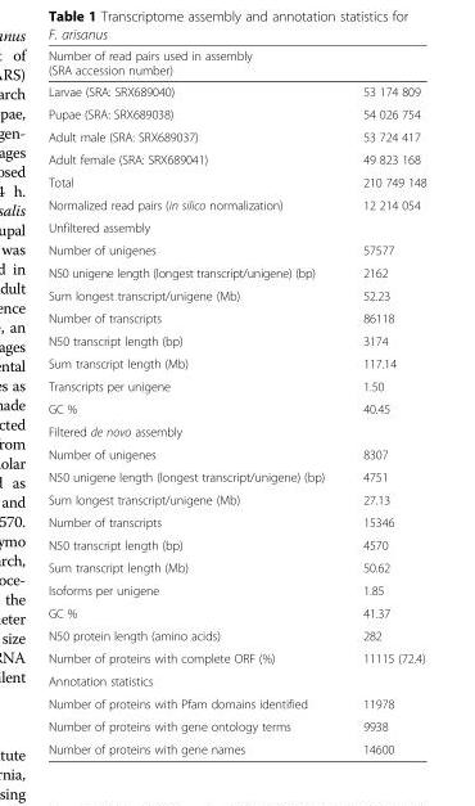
<table><thead><tr><td>Number of read pairs used in assembly (SRA accession number)</td><td></td></tr></thead><tbody><tr><td>Larvae (SRA: SRX689040)</td><td>53 174 809</td></tr><tr><td>Pupae (SRA: SRX689038)</td><td>54 026 754</td></tr><tr><td>Adult male (SRA: SRX689037)</td><td>53 724 417</td></tr><tr><td>Adult female (SRA: SRX689041)</td><td>49 823 168</td></tr><tr><td>Total</td><td>210 749 148</td></tr><tr><td>Normalized read pairs (in silico normalization)</td><td>12 214 054</td></tr><tr><td colspan="2">Unfiltered assembly</td></tr><tr><td>Number of unigenes</td><td>57577</td></tr><tr><td>N50 unigene length (longest transcript/unigene) (bp)</td><td>2162</td></tr><tr><td>Sum longest transcript/unigene (Mb)</td><td>52.23</td></tr><tr><td>Number of transcripts</td><td>86118</td></tr><tr><td>N50 transcript length (bp)</td><td>3174</td></tr><tr><td>Sum transcript length (Mb)</td><td>117.14</td></tr><tr><td>Transcripts per unigene</td><td>1.50</td></tr><tr><td>GC %</td><td>40.45</td></tr><tr><td colspan="2">Filtered de novo assembly</td></tr><tr><td>Number of unigenes</td><td>8307</td></tr><tr><td>N50 unigene length (longest transcript/unigene) (bp)</td><td>4751</td></tr><tr><td>Sum longest transcript/unigene (Mb)</td><td>27.13</td></tr><tr><td>Number of transcripts</td><td>15346</td></tr><tr><td>N50 transcript length (bp)</td><td>4570</td></tr><tr><td>Sum transcript length (Mb)</td><td>50.62</td></tr><tr><td>Isoforms per unigene</td><td>1.85</td></tr><tr><td>GC %</td><td>41.37</td></tr><tr><td>N50 protein length (amino acids)</td><td>282</td></tr><tr><td>Number of proteins with complete ORF (%)</td><td>11115 (72.4)</td></tr><tr><td colspan="2">Annotation statistics</td></tr><tr><td>Number of proteins with Pfam domains identified</td><td>11978</td></tr><tr><td>Number of proteins with gene ontology terms</td><td>9938</td></tr><tr><td>Number of proteins with gene names</td><td>14600</td></tr></tbody></table>